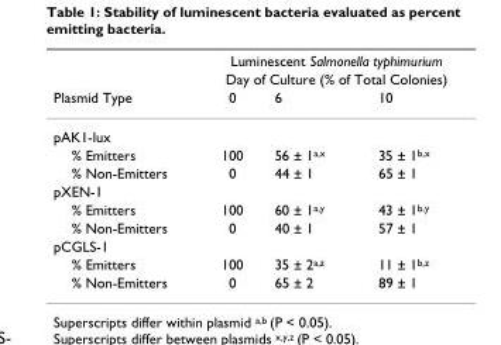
<table><thead><tr><td rowspan="3">Plasmid Type</td><td rowspan="2" colspan="3">Luminescent Salmonella typhimurium Day of Culture (% of Total Colonies)</td></tr><tr></tr><tr><td>0</td><td>6</td><td>10</td></tr></thead><tbody><tr><td colspan="4">pAK1-lux</td></tr><tr><td>% Emitters</td><td>100</td><td>56 ± 1<sup>a,x</sup></td><td>35 ± 1<sup>b,x</sup></td></tr><tr><td>% Non-Emitters</td><td>0</td><td>44 ± 1</td><td>65 ± 1</td></tr><tr><td colspan="4">pXEN-1</td></tr><tr><td>% Emitters</td><td>100</td><td>60 ± 1<sup>a,y</sup></td><td>43 ± 1<sup>b,y</sup></td></tr><tr><td>% Non-Emitters</td><td>0</td><td>40 ± 1</td><td>57 ± 1</td></tr><tr><td colspan="4">pCGLS-1</td></tr><tr><td>% Emitters</td><td>100</td><td>35 ± 2<sup>a,z</sup></td><td>11 ± 1<sup>b,z</sup></td></tr><tr><td>% Non-Emitters</td><td>0</td><td>65 ± 2</td><td>89 ± 1</td></tr></tbody></table>